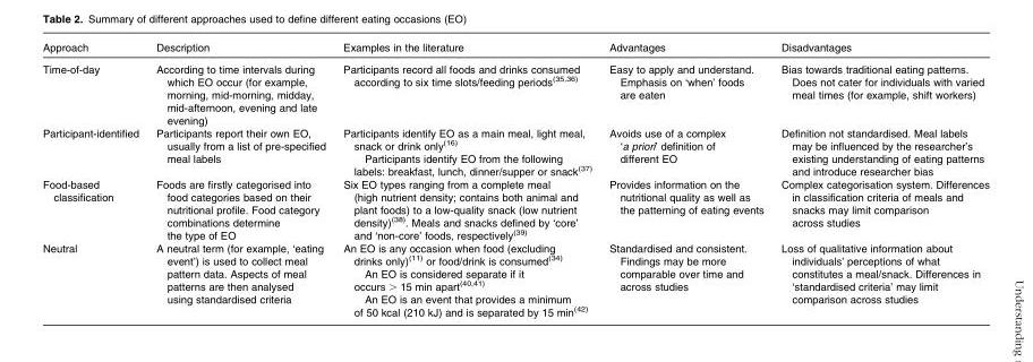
<table><thead><tr><td>Approach</td><td>Description</td><td>Examples in the literature</td><td>Advantages</td><td>Disadvantages</td></tr></thead><tbody><tr><td>Time-of-day</td><td>According to time intervals during which EO occur (for example, morning, mid-morning, midday, mid-afternoon, evening and late evening)</td><td>Participants record all foods and drinks consumed according to six time slots/feeding periods<sup>(35,36)</sup></td><td>Easy to apply and understand. Emphasis on ‘when’ foods are eaten</td><td>Bias towards traditional eating patterns. Does not cater for individuals with varied meal times (for example, shift workers)</td></tr><tr><td>Participant-identified</td><td>Participants report their own EO, usually from a list of pre-specified meal labels</td><td>Participants identify EO as a main meal, light meal, snack or drink only<sup>(16)</sup> Participants identify EO from the following labels: breakfast, lunch, dinner/supper or snack<sup>(37)</sup></td><td>Avoids use of a complex ‘a priori’ definition of different EO</td><td>Definition not standardised. Meal labels may be influenced by the researcher’s existing understanding of eating patterns and introduce researcher bias</td></tr><tr><td>Food-based classification</td><td>Foods are firstly categorised into food categories based on their nutritional profile. Food category combinations determine the type of EO</td><td>Six EO types ranging from a complete meal (high nutrient density; contains both animal and plant foods) to a low-quality snack (low nutrient density)<sup>(38)</sup>. Meals and snacks defined by ‘core’ and ‘non-core’ foods, respectively<sup>(39)</sup></td><td>Provides information on the nutritional quality as well as the patterning of eating events</td><td>Complex categorisation system. Differences in classification criteria of meals and snacks may limit comparison across studies</td></tr><tr><td>Neutral</td><td>A neutral term (for example, ‘eating event’) is used to collect meal pattern data. Aspects of meal patterns are then analysed using standardised criteria</td><td>An EO is any occasion when food (excluding drinks only)<sup>(11)</sup> or food/drink is consumed<sup>(34)</sup> An EO is considered separate if it occurs &gt; 15 min apart<sup>(40,41)</sup> An EO is an event that provides a minimum of 50 kcal (210 kJ) and is separated by 15 min<sup>(42)</sup></td><td>Standardised and consistent. Findings may be more comparable over time and across studies</td><td>Loss of qualitative information about individuals’ perceptions of what constitutes a meal/snack. Differences in ‘standardised criteria’ may limit comparison across studies</td></tr></tbody></table>